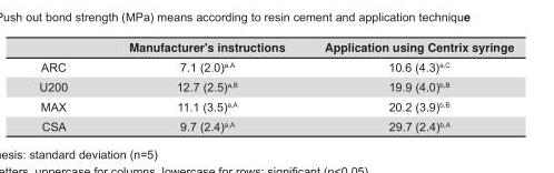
<table><thead><tr><td></td><td>Manufacturer&#x27;s instructions</td><td>Application using Centrix syringe</td></tr></thead><tbody><tr><td>ARC</td><td>7.1 (2.0)<sup>a,A</sup></td><td>10.6 (4.3)<sup>a,C</sup></td></tr><tr><td>U200</td><td>12.7 (2.5)<sup>a,B</sup></td><td>19.9 (4.0)<sup>b,B</sup></td></tr><tr><td>MAX</td><td>11.1 (3.5)<sup>a,A</sup></td><td>20.2 (3.9)<sup>b,B</sup></td></tr><tr><td>CSA</td><td>9.7 (2.4)<sup>a,A</sup></td><td>29.7 (2.4)<sup>b,A</sup></td></tr></tbody></table>